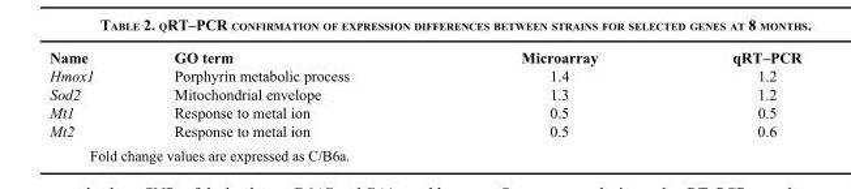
<table><thead><tr><td>Name</td><td>GO term</td><td>Microarray</td><td>qRT–PCR</td></tr></thead><tbody><tr><td>Hmox1</td><td>Porphyrin metabolic process</td><td>1.4</td><td>1.2</td></tr><tr><td>Sod2</td><td>Mitochondrial envelope</td><td>1.3</td><td>1.2</td></tr><tr><td>Mt1</td><td>Response to metal ion</td><td>0.5</td><td>0.5</td></tr><tr><td>Mt2</td><td>Response to metal ion</td><td>0.5</td><td>0.6</td></tr></tbody></table>